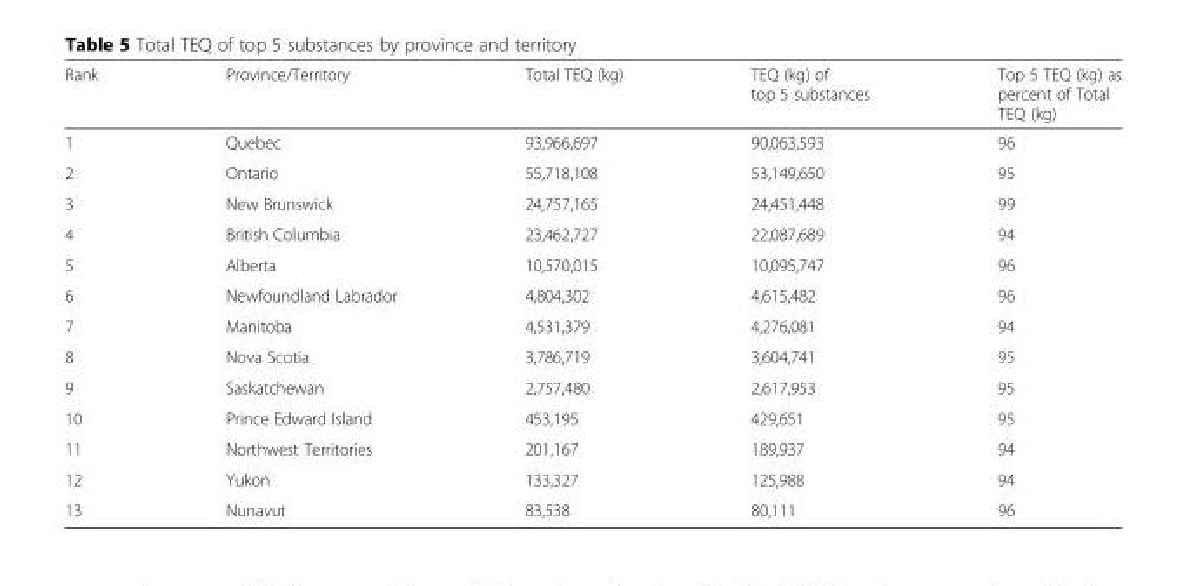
<table><thead><tr><td>Rank</td><td>Province/Territory</td><td>Total TEQ (kg)</td><td>TEQ (kg) of top 5 substances</td><td>Top 5 TEQ (kg) as percent of Total TEQ (kg)</td></tr></thead><tbody><tr><td>1</td><td>Quebec</td><td>93,966,697</td><td>90,063,593</td><td>96</td></tr><tr><td>2</td><td>Ontario</td><td>55,718,108</td><td>53,149,650</td><td>95</td></tr><tr><td>3</td><td>New Brunswick</td><td>24,757,165</td><td>24,451,448</td><td>99</td></tr><tr><td>4</td><td>British Columbia</td><td>23,462,727</td><td>22,087,689</td><td>94</td></tr><tr><td>5</td><td>Alberta</td><td>10,570,015</td><td>10,095,747</td><td>96</td></tr><tr><td>6</td><td>Newfoundland Labrador</td><td>4,804,302</td><td>4,615,482</td><td>96</td></tr><tr><td>7</td><td>Manitoba</td><td>4,531,379</td><td>4,276,081</td><td>94</td></tr><tr><td>8</td><td>Nova Scotia</td><td>3,786,719</td><td>3,604,741</td><td>95</td></tr><tr><td>9</td><td>Saskatchewan</td><td>2,757,480</td><td>2,617,953</td><td>95</td></tr><tr><td>10</td><td>Prince Edward Island</td><td>453,195</td><td>429,651</td><td>95</td></tr><tr><td>11</td><td>Northwest Territories</td><td>201,167</td><td>189,937</td><td>94</td></tr><tr><td>12</td><td>Yukon</td><td>133,327</td><td>125,988</td><td>94</td></tr><tr><td>13</td><td>Nunavut</td><td>83,538</td><td>80,111</td><td>96</td></tr></tbody></table>